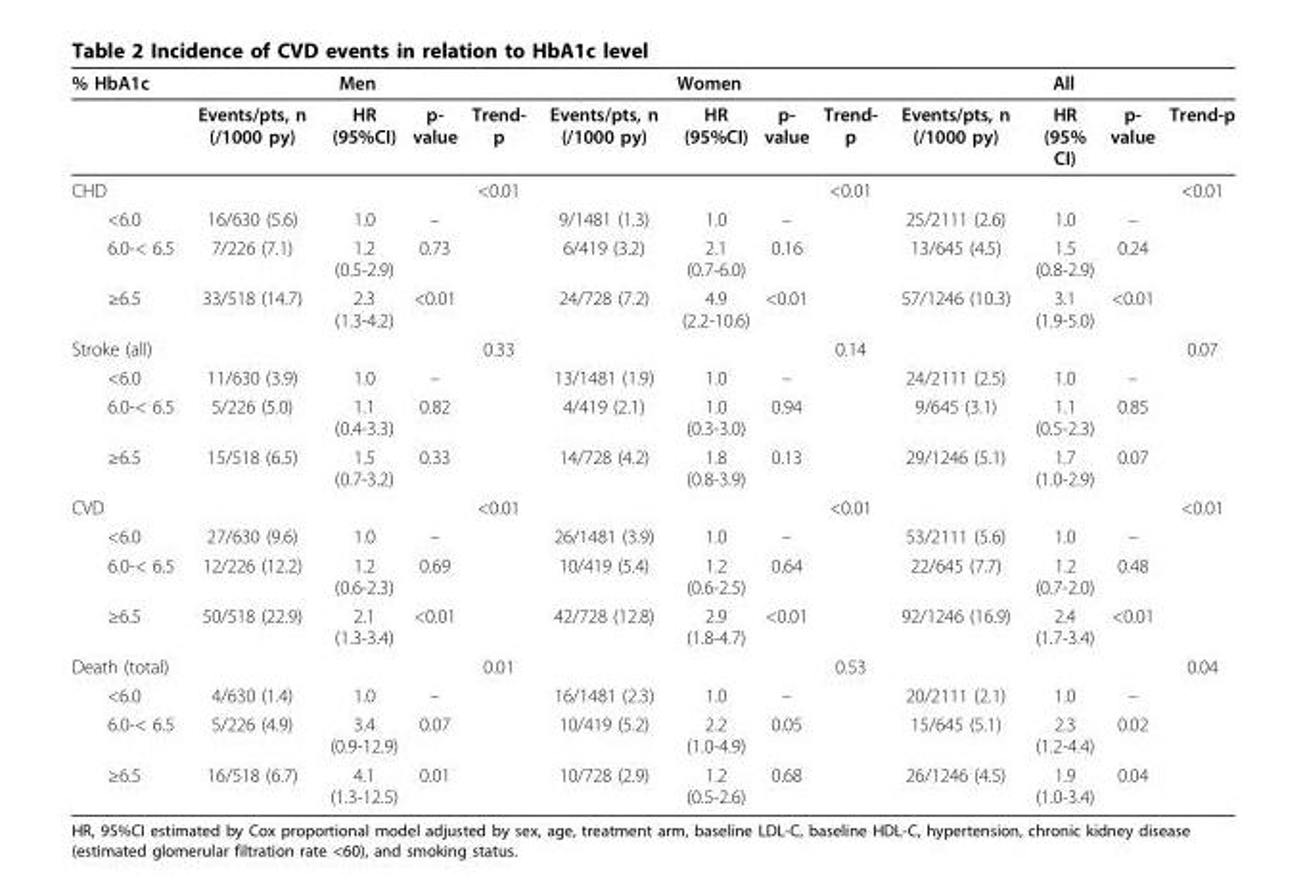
<table><thead><tr><td rowspan="2">% HbA1c</td><td colspan="4">Men</td><td colspan="4">Women</td><td colspan="4">All</td></tr><tr><td>Events/pts, n (/1000 py)</td><td>HR (95%CI)</td><td>p- value</td><td>Trend- p</td><td>Events/pts, n (/1000 py)</td><td>HR (95%CI)</td><td>p- value</td><td>Trend- p</td><td>Events/pts, n (/1000 py)</td><td>HR (95% CI)</td><td>p- value</td><td>Trend-p</td></tr></thead><tbody><tr><td>CHD</td><td></td><td></td><td></td><td>&lt;0.01</td><td></td><td></td><td></td><td>&lt;0.01</td><td></td><td></td><td></td><td>&lt;0.01</td></tr><tr><td>&lt;6.0</td><td>16/630 (5.6)</td><td>1.0</td><td>–</td><td></td><td>9/1481 (1.3)</td><td>1.0</td><td>–</td><td></td><td>25/2111 (2.6)</td><td>1.0</td><td>–</td><td></td></tr><tr><td>6.0-&lt; 6.5</td><td>7/226 (7.1)</td><td>1.2 (0.5-2.9)</td><td>0.73</td><td></td><td>6/419 (3.2)</td><td>2.1 (0.7-6.0)</td><td>0.16</td><td></td><td>13/645 (4.5)</td><td>1.5 (0.8-2.9)</td><td>0.24</td><td></td></tr><tr><td>≥6.5</td><td>33/518 (14.7)</td><td>2.3 (1.3-4.2)</td><td>&lt;0.01</td><td></td><td>24/728 (7.2)</td><td>4.9 (2.2-10.6)</td><td>&lt;0.01</td><td></td><td>57/1246 (10.3)</td><td>3.1 (1.9-5.0)</td><td>&lt;0.01</td><td></td></tr><tr><td>Stroke (all)</td><td></td><td></td><td></td><td>0.33</td><td></td><td></td><td></td><td>0.14</td><td></td><td></td><td></td><td>0.07</td></tr><tr><td>&lt;6.0</td><td>11/630 (3.9)</td><td>1.0</td><td>–</td><td></td><td>13/1481 (1.9)</td><td>1.0</td><td>–</td><td></td><td>24/2111 (2.5)</td><td>1.0</td><td>–</td><td></td></tr><tr><td>6.0-&lt; 6.5</td><td>5/226 (5.0)</td><td>1.1 (0.4-3.3)</td><td>0.82</td><td></td><td>4/419 (2.1)</td><td>1.0 (0.3-3.0)</td><td>0.94</td><td></td><td>9/645 (3.1)</td><td>1.1 (0.5-2.3)</td><td>0.85</td><td></td></tr><tr><td>≥6.5</td><td>15/518 (6.5)</td><td>1.5 (0.7-3.2)</td><td>0.33</td><td></td><td>14/728 (4.2)</td><td>1.8 (0.8-3.9)</td><td>0.13</td><td></td><td>29/1246 (5.1)</td><td>1.7 (1.0-2.9)</td><td>0.07</td><td></td></tr><tr><td>CVD</td><td></td><td></td><td></td><td>&lt;0.01</td><td></td><td></td><td></td><td>&lt;0.01</td><td></td><td></td><td></td><td>&lt;0.01</td></tr><tr><td>&lt;6.0</td><td>27/630 (9.6)</td><td>1.0</td><td>–</td><td></td><td>26/1481 (3.9)</td><td>1.0</td><td>–</td><td></td><td>53/2111 (5.6)</td><td>1.0</td><td>–</td><td></td></tr><tr><td>6.0-&lt; 6.5</td><td>12/226 (12.2)</td><td>1.2 (0.6-2.3)</td><td>0.69</td><td></td><td>10/419 (5.4)</td><td>1.2 (0.6-2.5)</td><td>0.64</td><td></td><td>22/645 (7.7)</td><td>1.2 (0.7-2.0)</td><td>0.48</td><td></td></tr><tr><td>≥6.5</td><td>50/518 (22.9)</td><td>2.1 (1.3-3.4)</td><td>&lt;0.01</td><td></td><td>42/728 (12.8)</td><td>2.9 (1.8-4.7)</td><td>&lt;0.01</td><td></td><td>92/1246 (16.9)</td><td>2.4 (1.7-3.4)</td><td>&lt;0.01</td><td></td></tr><tr><td>Death (total)</td><td></td><td></td><td></td><td>0.01</td><td></td><td></td><td></td><td>0.53</td><td></td><td></td><td></td><td>0.04</td></tr><tr><td>&lt;6.0</td><td>4/630 (1.4)</td><td>1.0</td><td>–</td><td></td><td>16/1481 (2.3)</td><td>1.0</td><td>–</td><td></td><td>20/2111 (2.1)</td><td>1.0</td><td>–</td><td></td></tr><tr><td>6.0-&lt; 6.5</td><td>5/226 (4.9)</td><td>3.4 (0.9-12.9)</td><td>0.07</td><td></td><td>10/419 (5.2)</td><td>2.2 (1.0-4.9)</td><td>0.05</td><td></td><td>15/645 (5.1)</td><td>2.3 (1.2-4.4)</td><td>0.02</td><td></td></tr><tr><td>≥6.5</td><td>16/518 (6.7)</td><td>4.1 (1.3-12.5)</td><td>0.01</td><td></td><td>10/728 (2.9)</td><td>1.2 (0.5-2.6)</td><td>0.68</td><td></td><td>26/1246 (4.5)</td><td>1.9 (1.0-3.4)</td><td>0.04</td><td></td></tr></tbody></table>